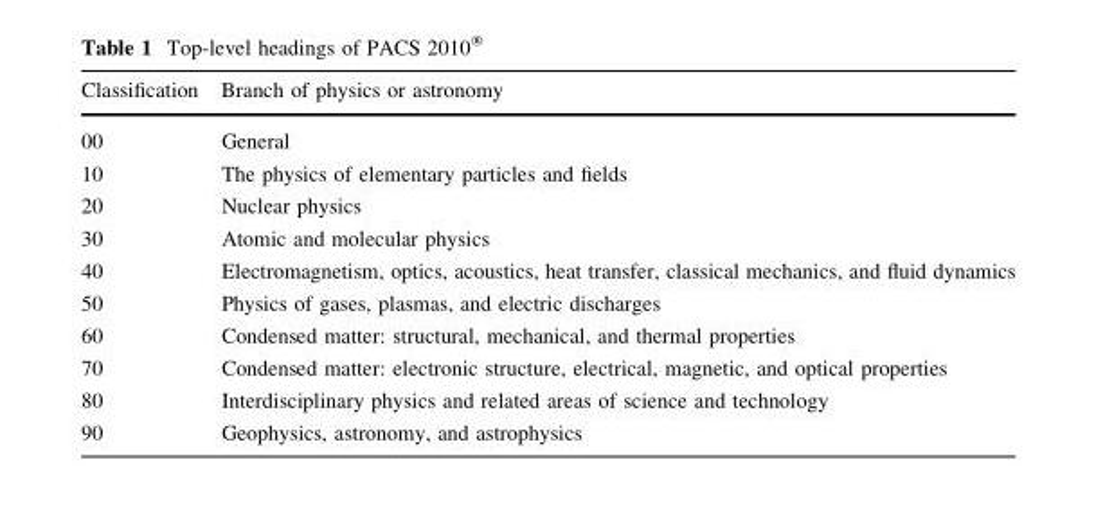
<table><thead><tr><td>Classification</td><td>Branch of physics or astronomy</td></tr></thead><tbody><tr><td>00</td><td>General</td></tr><tr><td>10</td><td>The physics of elementary particles and fields</td></tr><tr><td>20</td><td>Nuclear physics</td></tr><tr><td>30</td><td>Atomic and molecular physics</td></tr><tr><td>40</td><td>Electromagnetism, optics, acoustics, heat transfer, classical mechanics, and fluid dynamics</td></tr><tr><td>50</td><td>Physics of gases, plasmas, and electric discharges</td></tr><tr><td>60</td><td>Condensed matter: structural, mechanical, and thermal properties</td></tr><tr><td>70</td><td>Condensed matter: electronic structure, electrical, magnetic, and optical properties</td></tr><tr><td>80</td><td>Interdisciplinary physics and related areas of science and technology</td></tr><tr><td>90</td><td>Geophysics, astronomy, and astrophysics</td></tr></tbody></table>